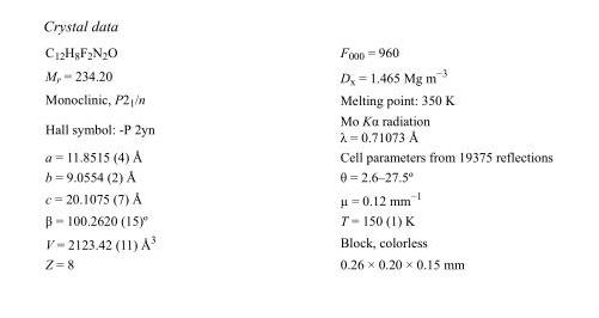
<table><tbody><tr><td>C<sub>12</sub>H<sub>8</sub>F<sub>2</sub>N<sub>2</sub>O</td><td>F<sub>000</sub> = 960</td></tr><tr><td>M<sub>r</sub> = 234.20</td><td>D<sub>x</sub> = 1.465 Mg m<sup>−3</sup></td></tr><tr><td>Monoclinic, P2<sub>1</sub>/n</td><td>Melting point: 350 K</td></tr><tr><td>Hall symbol: -P 2yn</td><td>Mo Kα radiation λ = 0.71073 Å</td></tr><tr><td>a = 11.8515 (4) Å</td><td>Cell parameters from 19375 reflections</td></tr><tr><td>b = 9.0554 (2) Å</td><td>θ = 2.6–27.5º</td></tr><tr><td>c = 20.1075 (7) Å</td><td>µ = 0.12 mm<sup>−1</sup></td></tr><tr><td>β = 100.2620 (15)º</td><td>T = 150 (1) K</td></tr><tr><td>V = 2123.42 (11) Å<sup>3</sup></td><td>Block, colorless</td></tr><tr><td>Z = 8</td><td>0.26 × 0.20 × 0.15 mm</td></tr></tbody></table>